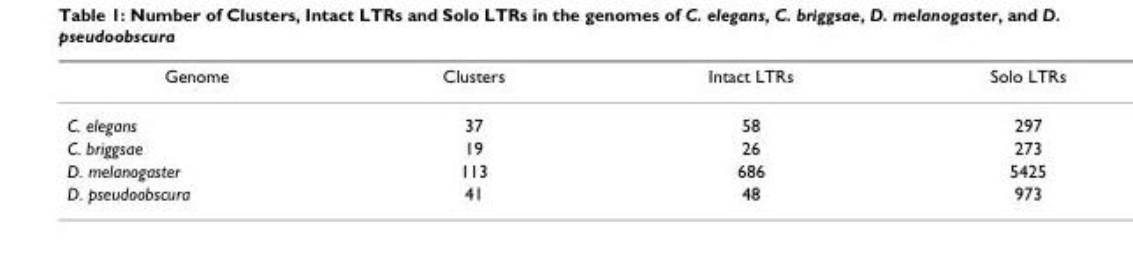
<table><thead><tr><td>Genome</td><td>Clusters</td><td>Intact LTRs</td><td>Solo LTRs</td></tr></thead><tbody><tr><td>C. elegans</td><td>37</td><td>58</td><td>297</td></tr><tr><td>C. briggsae</td><td>19</td><td>26</td><td>273</td></tr><tr><td>D. melanogaster</td><td>113</td><td>686</td><td>5425</td></tr><tr><td>D. pseudoobscura</td><td>41</td><td>48</td><td>973</td></tr></tbody></table>